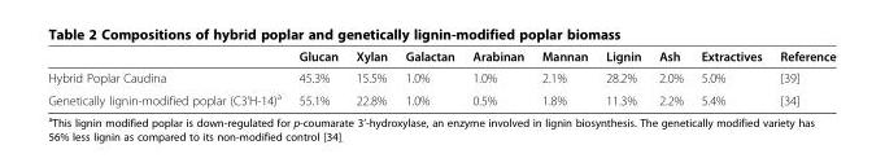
<table><thead><tr><td></td><td>Glucan</td><td>Xylan</td><td>Galactan</td><td>Arabinan</td><td>Mannan</td><td>Lignin</td><td>Ash</td><td>Extractives</td><td>Reference</td></tr></thead><tbody><tr><td>Hybrid Poplar Caudina</td><td>45.3%</td><td>15.5%</td><td>1.0%</td><td>1.0%</td><td>2.1%</td><td>28.2%</td><td>2.0%</td><td>5.0%</td><td>[39]</td></tr><tr><td>Genetically lignin-modified poplar (C3’H-14)<sup>a</sup></td><td>55.1%</td><td>22.8%</td><td>1.0%</td><td>0.5%</td><td>1.8%</td><td>11.3%</td><td>2.2%</td><td>5.4%</td><td>[34]</td></tr></tbody></table>